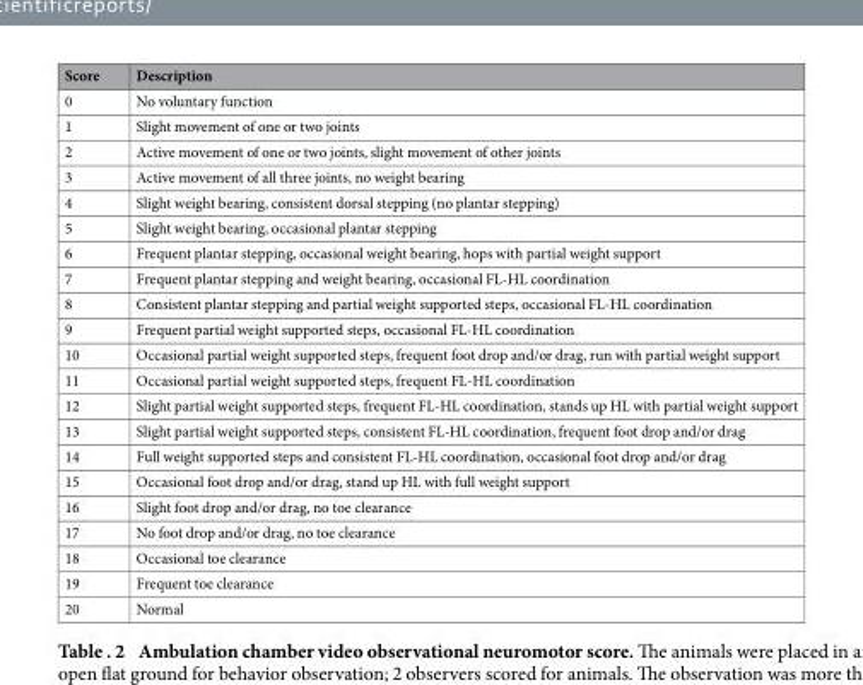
<table><thead><tr><td>Score</td><td>Description</td></tr></thead><tbody><tr><td>0</td><td>No voluntary function</td></tr><tr><td>1</td><td>Slight movement of one or two joints</td></tr><tr><td>2</td><td>Active movement of one or two joints, slight movement of other joints</td></tr><tr><td>3</td><td>Active movement of all three joints, no weight bearing</td></tr><tr><td>4</td><td>Slight weight bearing, consistent dorsal stepping (no plantar stepping)</td></tr><tr><td>5</td><td>Slight weight bearing, occasional plantar stepping</td></tr><tr><td>6</td><td>Frequent plantar stepping, occasional weight bearing, hops with partial weight support</td></tr><tr><td>7</td><td>Frequent plantar stepping and weight bearing, occasional FL-HL coordination</td></tr><tr><td>8</td><td>Consistent plantar stepping and partial weight supported steps, occasional FL-HL coordination</td></tr><tr><td>9</td><td>Frequent partial weight supported steps, occasional FL-HL coordination</td></tr><tr><td>10</td><td>Occasional partial weight supported steps, frequent foot drop and/or drag, run with partial weight support</td></tr><tr><td>11</td><td>Occasional partial weight supported steps, frequent FL-HL coordination</td></tr><tr><td>12</td><td>Slight partial weight supported steps, frequent FL-HL coordination, stands up HL with partial weight support</td></tr><tr><td>13</td><td>Slight partial weight supported steps, consistent FL-HL coordination, frequent foot drop and/or drag</td></tr><tr><td>14</td><td>Full weight supported steps and consistent FL-HL coordination, occasional foot drop and/or drag</td></tr><tr><td>15</td><td>Occasional foot drop and/or drag, stand up HL with full weight support</td></tr><tr><td>16</td><td>Slight foot drop and/or drag, no toe clearance</td></tr><tr><td>17</td><td>No foot drop and/or drag, no toe clearance</td></tr><tr><td>18</td><td>Occasional toe clearance</td></tr><tr><td>19</td><td>Frequent toe clearance</td></tr><tr><td>20</td><td>Normal</td></tr></tbody></table>